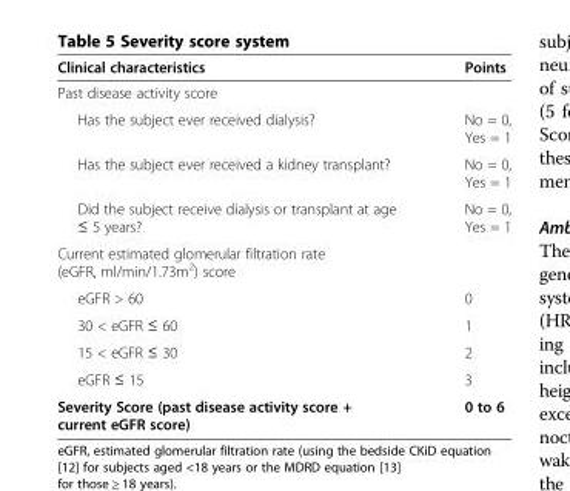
<table><thead><tr><td>Clinical characteristics</td><td>Points</td></tr></thead><tbody><tr><td colspan="2">Past disease activity score</td></tr><tr><td>Has the subject ever received dialysis?</td><td>No = 0, Yes = 1</td></tr><tr><td>Has the subject ever received a kidney transplant?</td><td>No = 0, Yes = 1</td></tr><tr><td>Did the subject receive dialysis or transplant at age ≤ 5 years?</td><td>No = 0, Yes = 1</td></tr><tr><td colspan="2">Current estimated glomerular filtration rate (eGFR, ml/min/1.73m<sup>2</sup>) score</td></tr><tr><td>eGFR &gt; 60</td><td>0</td></tr><tr><td>30 &lt; eGFR ≤ 60</td><td>1</td></tr><tr><td>15 &lt; eGFR ≤ 30</td><td>2</td></tr><tr><td>eGFR ≤ 15</td><td>3</td></tr><tr><td>Severity Score (past disease activity score + current eGFR score)</td><td>0 to 6</td></tr></tbody></table>